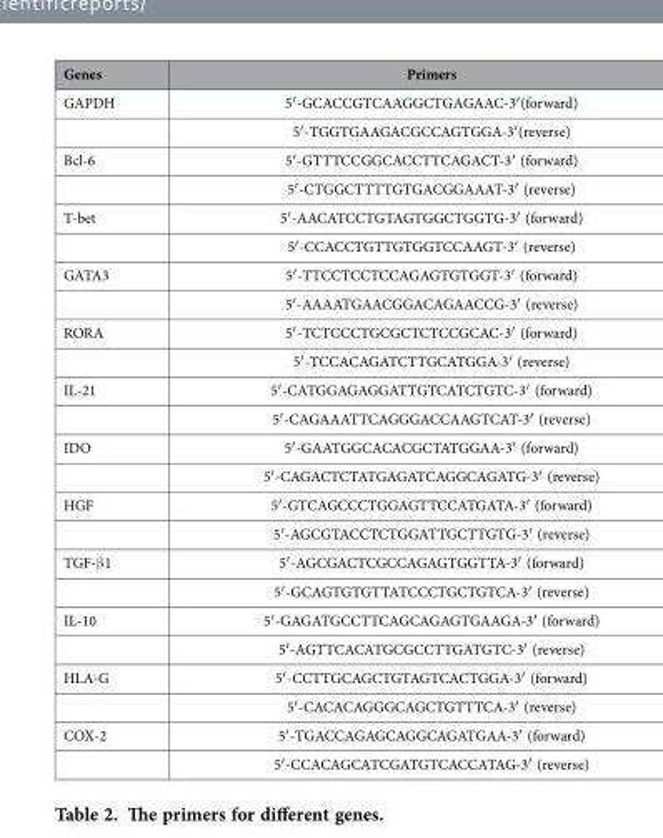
<table><thead><tr><td>Genes</td><td>Primers</td></tr></thead><tbody><tr><td rowspan="2">GAPDH</td><td>5′ -GCACCGTCAAGGCTGAGAAC-3′ (forward)</td></tr><tr><td>5′ -TGGTGAAGACGCCAGTGGA-3′ (reverse)</td></tr><tr><td rowspan="2">Bcl-6</td><td>5′ -GTTTCCGGCACCTTCAGACT-3′ (forward)</td></tr><tr><td>5′ -CTGGCTTTTGTGACGGAAAT-3′ (reverse)</td></tr><tr><td rowspan="2">T-bet</td><td>5′ -AACATCCTGTAGTGGCTGGTG-3′ (forward)</td></tr><tr><td>5′ -CCACCTGTTGTGGTCCAAGT-3′ (reverse)</td></tr><tr><td rowspan="2">GATA3</td><td>5′ -TTCCTCCTCCAGAGTGTGGT-3′ (forward)</td></tr><tr><td>5′ -AAAATGAACGGACAGAACCG-3′ (reverse)</td></tr><tr><td rowspan="2">RORA</td><td>5′ -TCTCCCTGCGCTCTCCGCAC-3′ (forward)</td></tr><tr><td>5′ -TCCACAGATCTTGCATGGA-3′ (reverse)</td></tr><tr><td rowspan="2">IL-21</td><td>5′ -CATGGAGAGGATTGTCATCTGTC-3′ (forward)</td></tr><tr><td>5′ -CAGAAATTCAGGGACCAAGTCAT-3′ (reverse)</td></tr><tr><td rowspan="2">IDO</td><td>5′ -GAATGGCACACGCTATGGAA-3′ (forward)</td></tr><tr><td>5′ -CAGACTCTATGAGATCAGGCAGATG-3′ (reverse)</td></tr><tr><td rowspan="2">HGF</td><td>5′ -GTCAGCCCTGGAGTTCCATGATA-3′ (forward)</td></tr><tr><td>5′ -AGCGTACCTCTGGATTGCTTGTG-3′ (reverse)</td></tr><tr><td rowspan="2">TGF-β 1</td><td>5′ -AGCGACTCGCCAGAGTGGTTA-3′ (forward)</td></tr><tr><td>5′ -GCAGTGTGTTATCCCTGCTGTCA-3′ (reverse)</td></tr><tr><td rowspan="2">IL-10</td><td>5′ -GAGATGCCTTCAGCAGAGTGAAGA-3′ (forward)</td></tr><tr><td>5′ -AGTTCACATGCGCCTTGATGTC-3′ (reverse)</td></tr><tr><td rowspan="2">HLA-G</td><td>5′ -CCTTGCAGCTGTAGTCACTGGA-3′ (forward)</td></tr><tr><td>5′ -CACACAGGGCAGCTGTTTCA-3′ (reverse)</td></tr><tr><td rowspan="2">COX-2</td><td>5′ -TGACCAGAGCAGGCAGATGAA-3′ (forward)</td></tr><tr><td>5′ -CCACAGCATCGATGTCACCATAG-3′ (reverse)</td></tr></tbody></table>